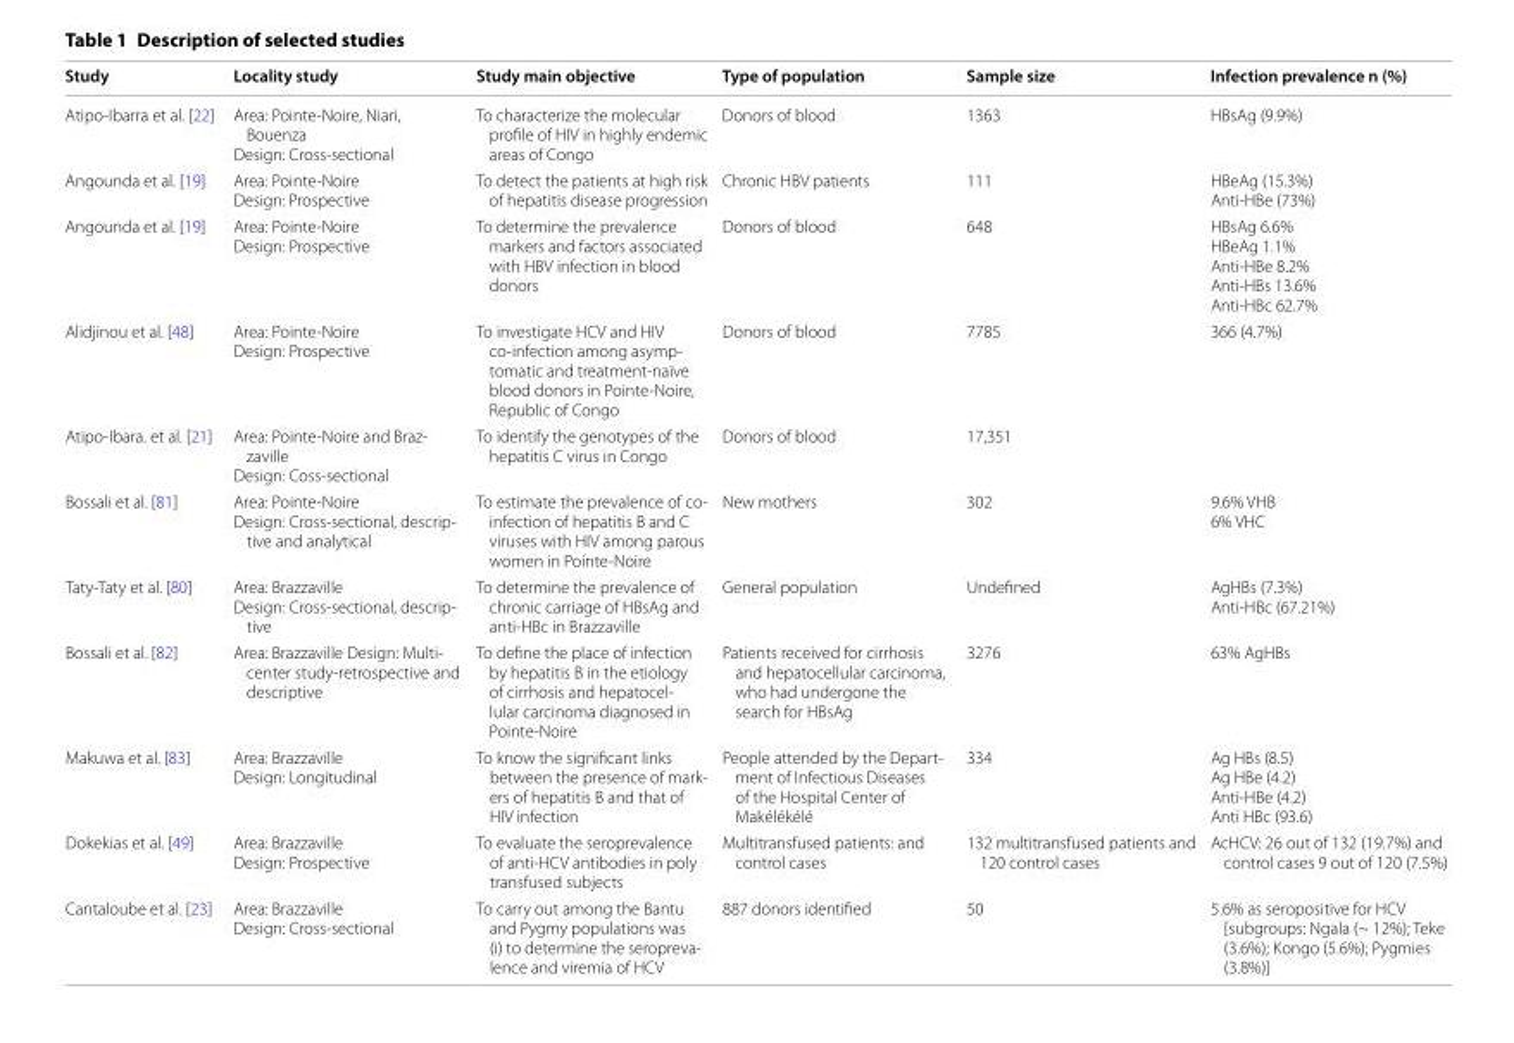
<table><thead><tr><td>Study</td><td>Locality study</td><td>Study main objective</td><td>Type of population</td><td>Sample size</td><td>Infection prevalence n (%)</td></tr></thead><tbody><tr><td>Atipo-Ibarra et al. [22]</td><td>Area: Pointe-Noire, Niari, Bouenza Design: Cross-sectional</td><td>To characterize the molecular profile of HIV in highly endemic areas of Congo</td><td>Donors of blood</td><td>1363</td><td>HBsAg (9.9%)</td></tr><tr><td>Angounda et al. [19]</td><td>Area: Pointe-Noire Design: Prospective</td><td>To detect the patients at high risk of hepatitis disease progression</td><td>Chronic HBV patients</td><td>111</td><td>HBeAg (15.3%) Anti-HBe (73%)</td></tr><tr><td>Angounda et al. [19]</td><td>Area: Pointe-Noire Design: Prospective</td><td>To determine the prevalence markers and factors associated with HBV infection in blood donors</td><td>Donors of blood</td><td>648</td><td>HBsAg 6.6% HBeAg 1.1% Anti-HBe 8.2% Anti-HBs 13.6% Anti-HBc 62.7%</td></tr><tr><td>Alidjinou et al. [48]</td><td>Area: Pointe-Noire Design: Prospective</td><td>To investigate HCV and HIV co-infection among asymp- tomatic and treatment-naïve blood donors in Pointe-Noire, Republic of Congo</td><td>Donors of blood</td><td>7785</td><td>366 (4.7%)</td></tr><tr><td>Atipo-Ibara. et al. [21]</td><td>Area: Pointe-Noire and Braz- zaville Design: Coss-sectional</td><td>To identify the genotypes of the hepatitis C virus in Congo</td><td>Donors of blood</td><td>17,351</td><td></td></tr><tr><td>Bossali et al. [81]</td><td>Area: Pointe-Noire Design: Cross-sectional, descrip- tive and analytical</td><td>To estimate the prevalence of co- infection of hepatitis B and C viruses with HIV among parous women in Pointe-Noire</td><td>New mothers</td><td>302</td><td>9.6% VHB 6% VHC</td></tr><tr><td>Taty-Taty et al. [80]</td><td>Area: Brazzaville Design: Cross-sectional, descrip- tive</td><td>To determine the prevalence of chronic carriage of HBsAg and anti-HBc in Brazzaville</td><td>General population</td><td>Undefined</td><td>AgHBs (7.3%) Anti-HBc (67.21%)</td></tr><tr><td>Bossali et al. [82]</td><td>Area: Brazzaville Design: Multi- center study-retrospective and descriptive</td><td>To define the place of infection by hepatitis B in the etiology of cirrhosis and hepatocel- lular carcinoma diagnosed in Pointe-Noire</td><td>Patients received for cirrhosis and hepatocellular carcinoma, who had undergone the search for HBsAg</td><td>3276</td><td>63% AgHBs</td></tr><tr><td>Makuwa et al. [83]</td><td>Area: Brazzaville Design: Longitudinal</td><td>To know the significant links between the presence of mark- ers of hepatitis B and that of HIV infection</td><td>People attended by the Depart- ment of Infectious Diseases of the Hospital Center of Makélékélé</td><td>334</td><td>Ag HBs (8.5) Ag HBe (4.2) Anti-HBe (4.2) Anti HBc (93.6)</td></tr><tr><td>Dokekias et al. [49]</td><td>Area: Brazzaville Design: Prospective</td><td>To evaluate the seroprevalence of anti-HCV antibodies in poly transfused subjects</td><td>Multitransfused patients: and control cases</td><td>132 multitransfused patients and 120 control cases</td><td>AcHCV: 26 out of 132 (19.7%) and control cases 9 out of 120 (7.5%)</td></tr><tr><td>Cantaloube et al. [23]</td><td>Area: Brazzaville Design: Cross-sectional</td><td>To carry out among the Bantu and Pygmy populations was (i) to determine the seropreva- lence and viremia of HCV</td><td>887 donors identified</td><td>50</td><td>5.6% as seropositive for HCV [subgroups: Ngala (~ 12%); Teke (3.6%); Kongo (5.6%); Pygmies (3.8%)]</td></tr></tbody></table>